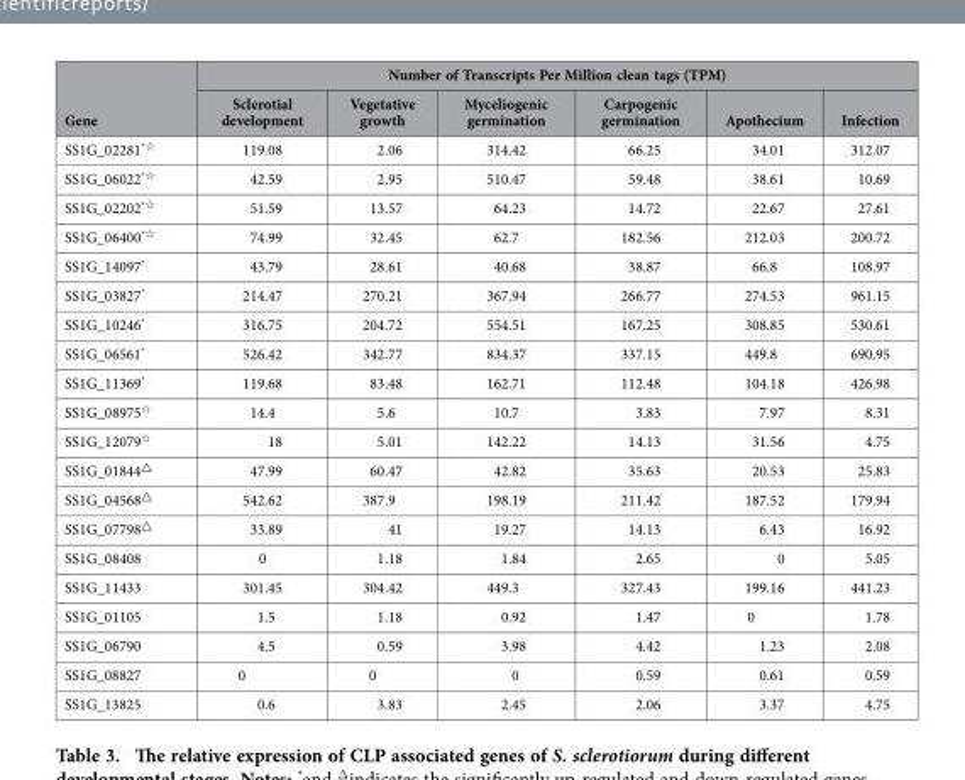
<table><thead><tr><td rowspan="2">Gene</td><td colspan="6">Number of Transcripts Per Million clean tags (TPM)</td></tr><tr><td>Sclerotial development</td><td>Vegetative growth</td><td>Myceliogenic germination</td><td>Carpogenic germination</td><td>Apothecium</td><td>Infection</td></tr></thead><tbody><tr><td>SS1G_02281*☆</td><td>119.08</td><td>2.06</td><td>314.42</td><td>66.25</td><td>34.01</td><td>312.07</td></tr><tr><td>SS1G_06022*☆</td><td>42.59</td><td>2.95</td><td>510.47</td><td>59.48</td><td>38.61</td><td>10.69</td></tr><tr><td>SS1G_02202*☆</td><td>51.59</td><td>13.57</td><td>64.23</td><td>14.72</td><td>22.67</td><td>27.61</td></tr><tr><td>SS1G_06400*☆</td><td>74.99</td><td>32.45</td><td>62.7</td><td>182.56</td><td>212.03</td><td>200.72</td></tr><tr><td>SS1G_14097*</td><td>43.79</td><td>28.61</td><td>40.68</td><td>38.87</td><td>66.8</td><td>108.97</td></tr><tr><td>SS1G_03827*</td><td>214.47</td><td>270.21</td><td>367.94</td><td>266.77</td><td>274.53</td><td>961.15</td></tr><tr><td>SS1G_10246*</td><td>316.75</td><td>204.72</td><td>554.51</td><td>167.25</td><td>308.85</td><td>530.61</td></tr><tr><td>SS1G_06561*</td><td>526.42</td><td>342.77</td><td>834.37</td><td>337.15</td><td>449.8</td><td>690.95</td></tr><tr><td>SS1G_11369*</td><td>119.68</td><td>83.48</td><td>162.71</td><td>112.48</td><td>104.18</td><td>426.98</td></tr><tr><td>SS1G_08975☆</td><td>14.4</td><td>5.6</td><td>10.7</td><td>3.83</td><td>7.97</td><td>8.31</td></tr><tr><td>SS1G_12079☆</td><td>18</td><td>5.01</td><td>142.22</td><td>14.13</td><td>31.56</td><td>4.75</td></tr><tr><td>SS1G_01844△</td><td>47.99</td><td>60.47</td><td>42.82</td><td>35.63</td><td>20.53</td><td>25.83</td></tr><tr><td>SS1G_04568△</td><td>542.62</td><td>387.9</td><td>198.19</td><td>211.42</td><td>187.52</td><td>179.94</td></tr><tr><td>SS1G_07798△</td><td>33.89</td><td>41</td><td>19.27</td><td>14.13</td><td>6.43</td><td>16.92</td></tr><tr><td>SS1G_08408</td><td>0</td><td>1.18</td><td>1.84</td><td>2.65</td><td>0</td><td>5.05</td></tr><tr><td>SS1G_11433</td><td>301.45</td><td>304.42</td><td>449.3</td><td>327.43</td><td>199.16</td><td>441.23</td></tr><tr><td>SS1G_01105</td><td>1.5</td><td>1.18</td><td>0.92</td><td>1.47</td><td>0</td><td>1.78</td></tr><tr><td>SS1G_06790</td><td>4.5</td><td>0.59</td><td>3.98</td><td>4.42</td><td>1.23</td><td>2.08</td></tr><tr><td>SS1G_08827</td><td>0</td><td>0</td><td>0</td><td>0.59</td><td>0.61</td><td>0.59</td></tr><tr><td>SS1G_13825</td><td>0.6</td><td>3.83</td><td>2.45</td><td>2.06</td><td>3.37</td><td>4.75</td></tr></tbody></table>